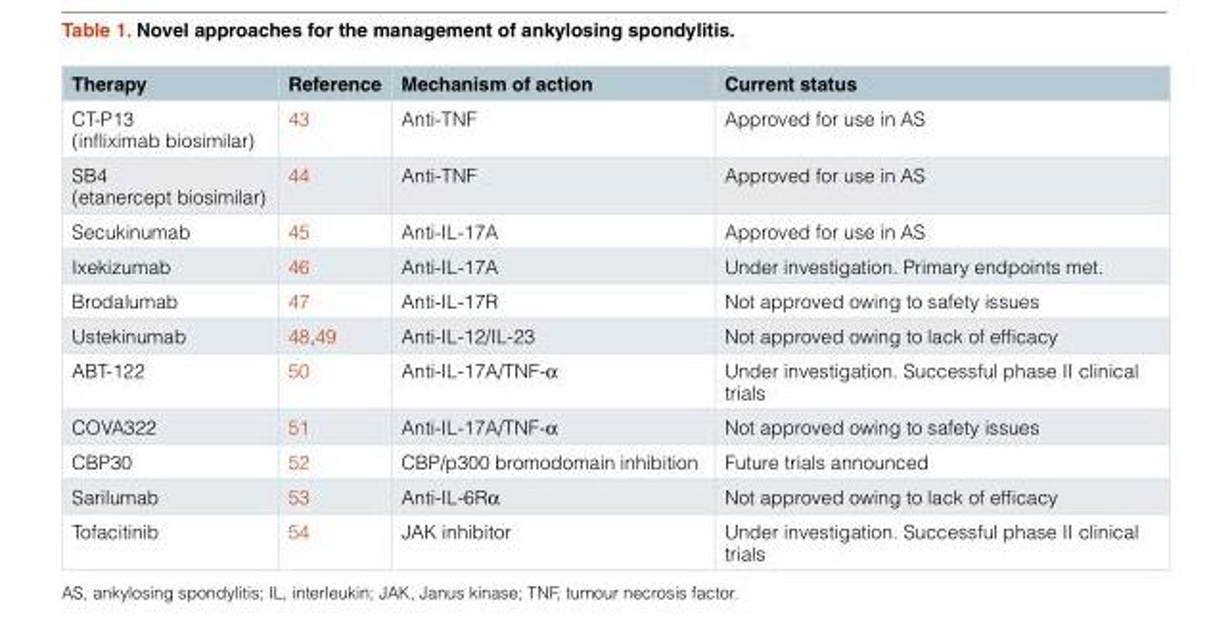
<table><thead><tr><td>Therapy</td><td>Reference</td><td>Mechanism of action</td><td>Current status</td></tr></thead><tbody><tr><td>CT-P13 (infliximab biosimilar)</td><td>43</td><td>Anti-TNF</td><td>Approved for use in AS</td></tr><tr><td>SB4 (etanercept biosimilar)</td><td>44</td><td>Anti-TNF</td><td>Approved for use in AS</td></tr><tr><td>Secukinumab</td><td>45</td><td>Anti-IL-17A</td><td>Approved for use in AS</td></tr><tr><td>Ixekizumab</td><td>46</td><td>Anti-IL-17A</td><td>Under investigation. Primary endpoints met.</td></tr><tr><td>Brodalumab</td><td>47</td><td>Anti-IL-17R</td><td>Not approved owing to safety issues</td></tr><tr><td>Ustekinumab</td><td>48,49</td><td>Anti-IL-12/IL-23</td><td>Not approved owing to lack of efficacy</td></tr><tr><td>ABT-122</td><td>50</td><td>Anti-IL-17A/TNF-α</td><td>Under investigation. Successful phase II clinical trials</td></tr><tr><td>COVA322</td><td>51</td><td>Anti-IL-17A/TNF-α</td><td>Not approved owing to safety issues</td></tr><tr><td>CBP30</td><td>52</td><td>CBP/p300 bromodomain inhibition</td><td>Future trials announced</td></tr><tr><td>Sarilumab</td><td>53</td><td>Anti-IL-6Rα</td><td>Not approved owing to lack of efficacy</td></tr><tr><td>Tofacitinib</td><td>54</td><td>JAK inhibitor</td><td>Under investigation. Successful phase II clinical trials</td></tr></tbody></table>